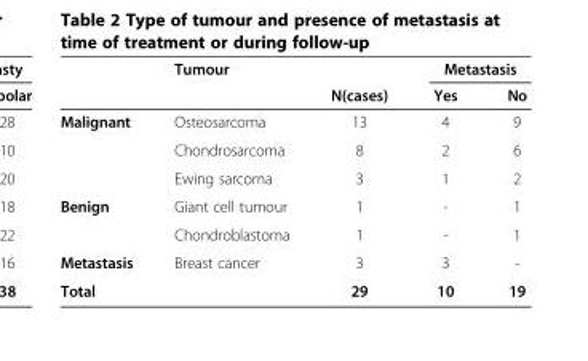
<table><thead><tr><td rowspan="2"></td><td rowspan="2">Tumour</td><td rowspan="2">N(cases)</td><td colspan="2">Metastasis</td></tr><tr><td>Yes</td><td>No</td></tr></thead><tbody><tr><td rowspan="3">Malignant</td><td>Osteosarcoma</td><td>13</td><td>4</td><td>9</td></tr><tr><td>Chondrosarcoma</td><td>8</td><td>2</td><td>6</td></tr><tr><td>Ewing sarcoma</td><td>3</td><td>1</td><td>2</td></tr><tr><td rowspan="2">Benign</td><td>Giant cell tumour</td><td>1</td><td>-</td><td>1</td></tr><tr><td>Chondroblastoma</td><td>1</td><td>-</td><td>1</td></tr><tr><td>Metastasis</td><td>Breast cancer</td><td>3</td><td>3</td><td>-</td></tr><tr><td>Total</td><td></td><td>29</td><td>10</td><td>19</td></tr></tbody></table>